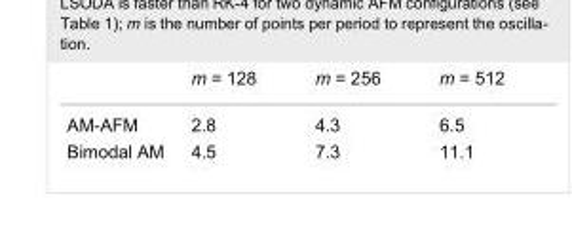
<table><thead><tr><td></td><td>m = 128</td><td>m = 256</td><td>m = 512</td></tr></thead><tbody><tr><td>AM-AFM</td><td>2.8</td><td>4.3</td><td>6.5</td></tr><tr><td>Bimodal AM</td><td>4.5</td><td>7.3</td><td>11.1</td></tr></tbody></table>